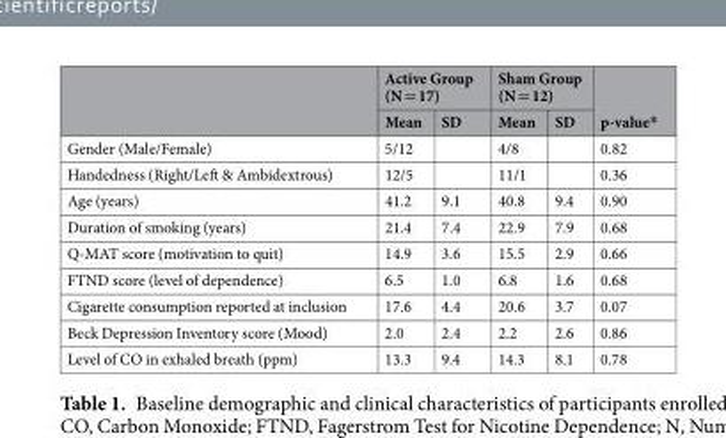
<table><thead><tr><td rowspan="2"></td><td colspan="2">Active Group (N = 17)</td><td colspan="2">Sham Group (N = 12)</td><td rowspan="2">p-value*</td></tr><tr><td>Mean</td><td>SD</td><td>Mean</td><td>SD</td></tr></thead><tbody><tr><td>Gender (Male/Female)</td><td>5/12</td><td></td><td>4/8</td><td></td><td>0.82</td></tr><tr><td>Handedness (Right/Left &amp; Ambidextrous)</td><td>12/5</td><td></td><td>11/1</td><td></td><td>0.36</td></tr><tr><td>Age (years)</td><td>41.2</td><td>9.1</td><td>40.8</td><td>9.4</td><td>0.90</td></tr><tr><td>Duration of smoking (years)</td><td>21.4</td><td>7.4</td><td>22.9</td><td>7.9</td><td>0.68</td></tr><tr><td>Q-MAT score (motivation to quit)</td><td>14.9</td><td>3.6</td><td>15.5</td><td>2.9</td><td>0.66</td></tr><tr><td>FTND score (level of dependence)</td><td>6.5</td><td>1.0</td><td>6.8</td><td>1.6</td><td>0.68</td></tr><tr><td>Cigarette consumption reported at inclusion</td><td>17.6</td><td>4.4</td><td>20.6</td><td>3.7</td><td>0.07</td></tr><tr><td>Beck Depression Inventory score (Mood)</td><td>2.0</td><td>2.4</td><td>2.2</td><td>2.6</td><td>0.86</td></tr><tr><td>Level of CO in exhaled breath (ppm)</td><td>13.3</td><td>9.4</td><td>14.3</td><td>8.1</td><td>0.78</td></tr></tbody></table>